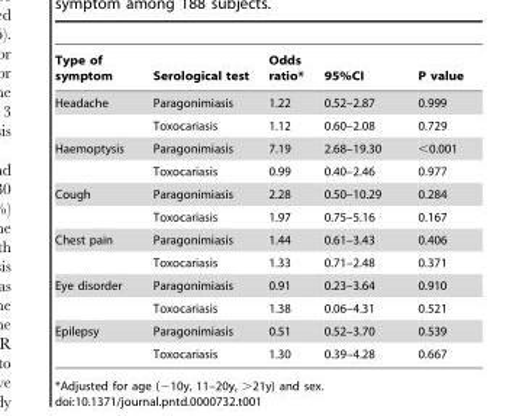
<table><thead><tr><td>Type of symptom</td><td>Serological test</td><td>Odds ratio*</td><td>95%CI</td><td>P value</td></tr></thead><tbody><tr><td rowspan="2">Headache</td><td>Paragonimiasis</td><td>1.22</td><td>0.52–2.87</td><td>0.999</td></tr><tr><td>Toxocariasis</td><td>1.12</td><td>0.60–2.08</td><td>0.729</td></tr><tr><td rowspan="2">Haemoptysis</td><td>Paragonimiasis</td><td>7.19</td><td>2.68–19.30</td><td>&lt;0.001</td></tr><tr><td>Toxocariasis</td><td>0.99</td><td>0.40–2.46</td><td>0.977</td></tr><tr><td rowspan="2">Cough</td><td>Paragonimiasis</td><td>2.28</td><td>0.50–10.29</td><td>0.284</td></tr><tr><td>Toxocariasis</td><td>1.97</td><td>0.75–5.16</td><td>0.167</td></tr><tr><td rowspan="2">Chest pain</td><td>Paragonimiasis</td><td>1.44</td><td>0.61–3.43</td><td>0.406</td></tr><tr><td>Toxocariasis</td><td>1.33</td><td>0.71–2.48</td><td>0.371</td></tr><tr><td rowspan="2">Eye disorder</td><td>Paragonimiasis</td><td>0.91</td><td>0.23–3.64</td><td>0.910</td></tr><tr><td>Toxocariasis</td><td>1.38</td><td>0.06–4.31</td><td>0.521</td></tr><tr><td rowspan="2">Epilepsy</td><td>Paragonimiasis</td><td>0.51</td><td>0.52–3.70</td><td>0.539</td></tr><tr><td>Toxocariasis</td><td>1.30</td><td>0.39–4.28</td><td>0.667</td></tr></tbody></table>